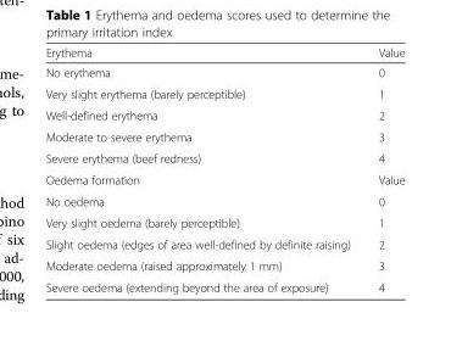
<table><thead><tr><td>Erythema</td><td>Value</td></tr></thead><tbody><tr><td>No erythema</td><td>0</td></tr><tr><td>Very slight erythema (barely perceptible)</td><td>1</td></tr><tr><td>Well-defined erythema</td><td>2</td></tr><tr><td>Moderate to severe erythema</td><td>3</td></tr><tr><td>Severe erythema (beef redness)</td><td>4</td></tr><tr><td>Oedema formation</td><td>Value</td></tr><tr><td>No oedema</td><td>0</td></tr><tr><td>Very slight oedema (barely perceptible)</td><td>1</td></tr><tr><td>Slight oedema (edges of area well-defined by definite raising)</td><td>2</td></tr><tr><td>Moderate oedema (raised approximately 1 mm)</td><td>3</td></tr><tr><td>Severe oedema (extending beyond the area of exposure)</td><td>4</td></tr></tbody></table>